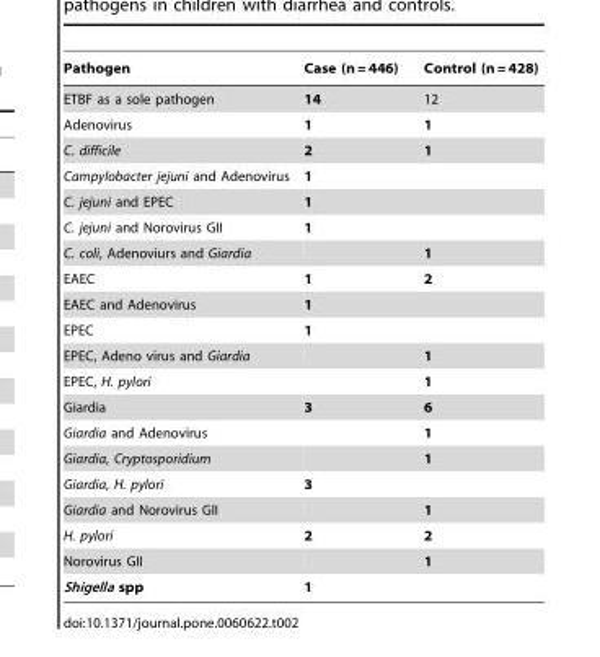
<table><thead><tr><td>Pathogen</td><td>Case (n = 446)</td><td>Control (n = 428)</td></tr></thead><tbody><tr><td>ETBF as a sole pathogen</td><td>14</td><td>12</td></tr><tr><td>Adenovirus</td><td>1</td><td>1</td></tr><tr><td>C. difficile</td><td>2</td><td>1</td></tr><tr><td>Campylobacter jejuni and Adenovirus</td><td>1</td><td></td></tr><tr><td>C. jejuni and EPEC</td><td>1</td><td></td></tr><tr><td>C. jejuni and Norovirus GII</td><td>1</td><td></td></tr><tr><td>C. coli, Adenoviurs and Giardia</td><td></td><td>1</td></tr><tr><td>EAEC</td><td>1</td><td>2</td></tr><tr><td>EAEC and Adenovirus</td><td>1</td><td></td></tr><tr><td>EPEC</td><td>1</td><td></td></tr><tr><td>EPEC, Adeno virus and Giardia</td><td></td><td>1</td></tr><tr><td>EPEC, H. pylori</td><td></td><td>1</td></tr><tr><td>Giardia</td><td>3</td><td>6</td></tr><tr><td>Giardia and Adenovirus</td><td></td><td>1</td></tr><tr><td>Giardia, Cryptosporidium</td><td></td><td>1</td></tr><tr><td>Giardia, H. pylori</td><td>3</td><td></td></tr><tr><td>Giardia and Norovirus GII</td><td></td><td>1</td></tr><tr><td>H. pylori</td><td>2</td><td>2</td></tr><tr><td>Norovirus GII</td><td></td><td>1</td></tr><tr><td>Shigella spp</td><td>1</td><td></td></tr></tbody></table>